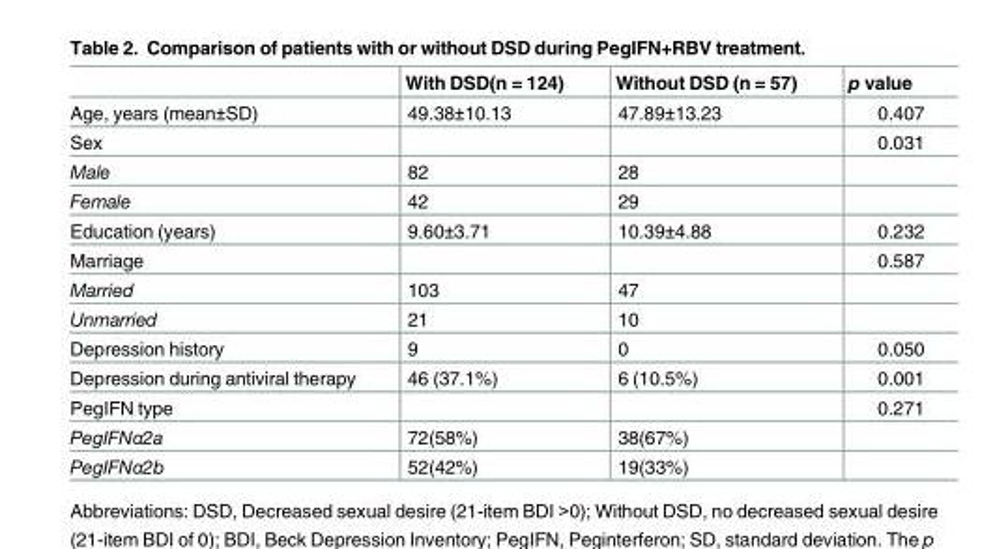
<table><thead><tr><td></td><td>With DSD(n = 124)</td><td>Without DSD (n = 57)</td><td>p value</td></tr></thead><tbody><tr><td>Age, years (mean±SD)</td><td>49.38±10.13</td><td>47.89±13.23</td><td>0.407</td></tr><tr><td>Sex</td><td></td><td></td><td>0.031</td></tr><tr><td>Male</td><td>82</td><td>28</td><td></td></tr><tr><td>Female</td><td>42</td><td>29</td><td></td></tr><tr><td>Education (years)</td><td>9.60±3.71</td><td>10.39±4.88</td><td>0.232</td></tr><tr><td>Marriage</td><td></td><td></td><td>0.587</td></tr><tr><td>Married</td><td>103</td><td>47</td><td></td></tr><tr><td>Unmarried</td><td>21</td><td>10</td><td></td></tr><tr><td>Depression history</td><td>9</td><td>0</td><td>0.050</td></tr><tr><td>Depression during antiviral therapy</td><td>46 (37.1%)</td><td>6 (10.5%)</td><td>0.001</td></tr><tr><td>PegIFN type</td><td></td><td></td><td>0.271</td></tr><tr><td>PegIFNα2a</td><td>72(58%)</td><td>38(67%)</td><td></td></tr><tr><td>PegIFNα2b</td><td>52(42%)</td><td>19(33%)</td><td></td></tr></tbody></table>